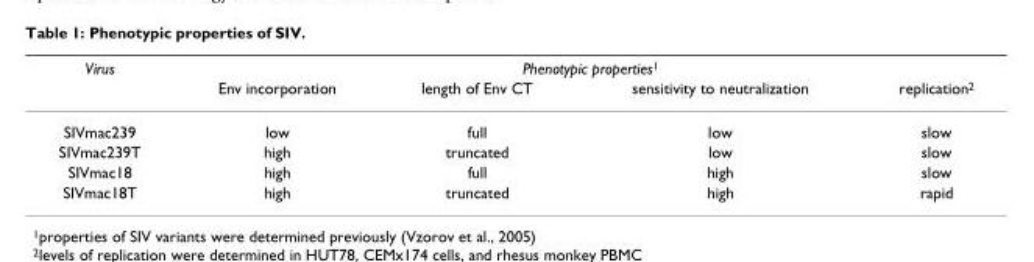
<table><thead><tr><td rowspan="2">Virus</td><td colspan="4">Phenotypic properties<sup>1</sup></td></tr><tr><td>Env incorporation</td><td>length of Env CT</td><td>sensitivity to neutralization</td><td>replication<sup>2</sup></td></tr></thead><tbody><tr><td>SIVmac239</td><td>low</td><td>full</td><td>low</td><td>slow</td></tr><tr><td>SIVmac239T</td><td>high</td><td>truncated</td><td>low</td><td>slow</td></tr><tr><td>SIVmac18</td><td>high</td><td>full</td><td>high</td><td>slow</td></tr><tr><td>SIVmac18T</td><td>high</td><td>truncated</td><td>high</td><td>rapid</td></tr></tbody></table>